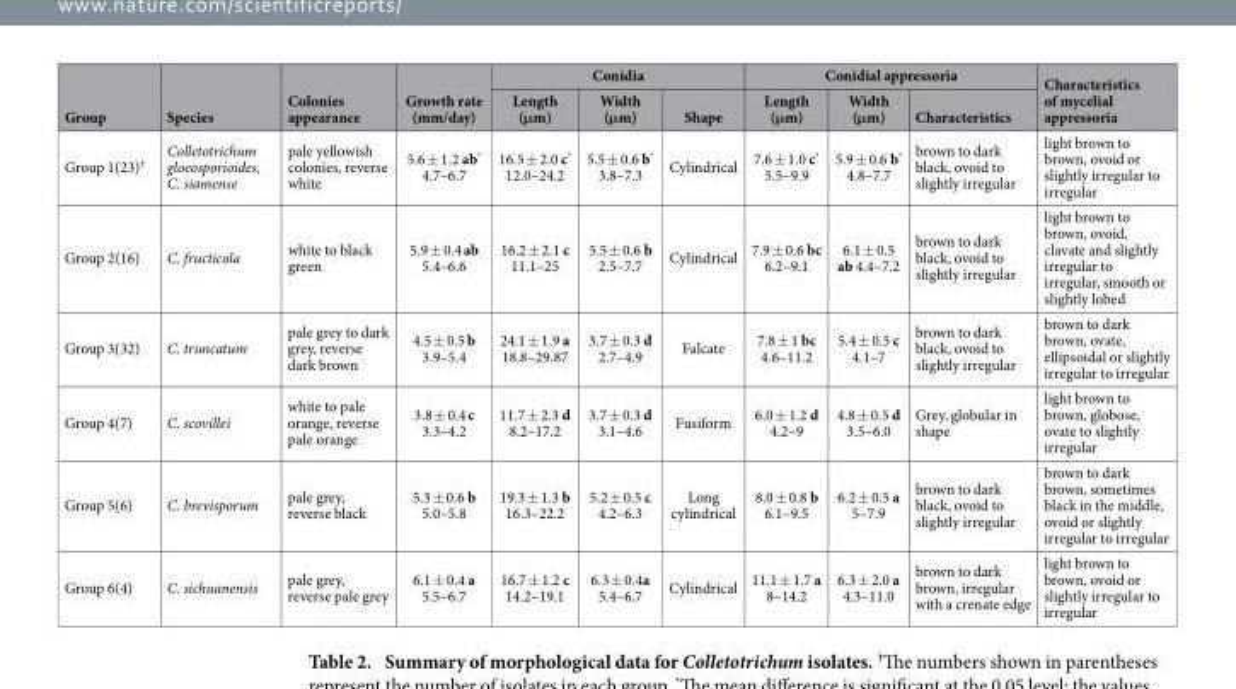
<table><thead><tr><td rowspan="2">Group</td><td rowspan="2">Species</td><td rowspan="2">Colonies appearance</td><td rowspan="2">Growth rate (mm/day)</td><td colspan="3">Conidia</td><td colspan="3">Conidial appressoria</td><td rowspan="2">Characteristics of mycelial appressoria</td></tr><tr><td>Length (μm)</td><td>Width (μm)</td><td>Shape</td><td>Length (μm)</td><td>Width (μm)</td><td>Characteristics</td></tr></thead><tbody><tr><td>Group 1(23)†</td><td>Colletotrichum gloeosporioides, C. siamense</td><td>pale yellowish colonies, reverse white</td><td>5.6 ± 1.2 ab* 4.7–6.7</td><td>16.5 ± 2.0 c* 12.0–24.2</td><td>5.5 ± 0.6 b* 3.8–7.3</td><td>Cylindrical</td><td>7.6 ± 1.0 c* 5.5–9.9</td><td>5.9 ± 0.6 b* 4.8–7.7</td><td>brown to dark black, ovoid to slightly irregular</td><td>light brown to brown, ovoid or slightly irregular to irregular</td></tr><tr><td>Group 2(16)</td><td>C. fructicola</td><td>white to black green</td><td>5.9 ± 0.4 ab 5.4–6.6</td><td>16.2 ± 2.1 c 11.1–25</td><td>5.5 ± 0.6 b 2.5–7.7</td><td>Cylindrical</td><td>7.9 ± 0.6 bc 6.2–9.1</td><td>6.1 ± 0.5 ab 4.4–7.2</td><td>brown to dark black, ovoid to slightly irregular</td><td>light brown to brown, ovoid, clavate and slightly irregular to irregular, smooth or slightly lobed</td></tr><tr><td>Group 3(32)</td><td>C. truncatum</td><td>pale grey to dark grey, reverse dark brown</td><td>4.5 ± 0.5 b 3.9–5.4</td><td>24.1 ± 1.9 a 18.8–29.87</td><td>3.7 ± 0.3 d 2.7–4.9</td><td>Falcate</td><td>7.8 ± 1 bc 4.6–11.2</td><td>5.4 ± 0.5 c 4.1–7</td><td>brown to dark black, ovoid to slightly irregular</td><td>brown to dark brown, ovate, ellipsoidal or slightly irregular to irregular</td></tr><tr><td>Group 4(7)</td><td>C. scovillei</td><td>white to pale orange, reverse pale orange</td><td>3.8 ± 0.4 c 3.3–4.2</td><td>11.7 ± 2.3 d 8.2–17.2</td><td>3.7 ± 0.3 d 3.1–4.6</td><td>Fusiform</td><td>6.0 ± 1.2 d 4.2–9</td><td>4.8 ± 0.5 d 3.5–6.0</td><td>Grey, globular in shape</td><td>light brown to brown, globose, ovate to slightly irregular</td></tr><tr><td>Group 5(6)</td><td>C. brevisporum</td><td>pale grey, reverse black</td><td>5.3 ± 0.6 b 5.0–5.8</td><td>19.3 ± 1.3 b 16.3–22.2</td><td>5.2 ± 0.5 c 4.2–6.3</td><td>Long cylindrical</td><td>8.0 ± 0.8 b 6.1–9.5</td><td>6.2 ± 0.5 a 5–7.9</td><td>brown to dark black, ovoid to slightly irregular</td><td>brown to dark brown, sometimes black in the middle, ovoid or slightly irregular to irregular</td></tr><tr><td>Group 6(4)</td><td>C. sichuanensis</td><td>pale grey, reverse pale grey</td><td>6.1 ± 0.4 a 5.5–6.7</td><td>16.7 ± 1.2 c 14.2–19.1</td><td>6.3 ± 0.4a 5.4–6.7</td><td>Cylindrical</td><td>11.1 ± 1.7 a 8–14.2</td><td>6.3 ± 2.0 a 4.3–11.0</td><td>brown to dark brown, irregular with a crenate edge</td><td>light brown to brown, ovoid or slightly irregular to irregular</td></tr></tbody></table>